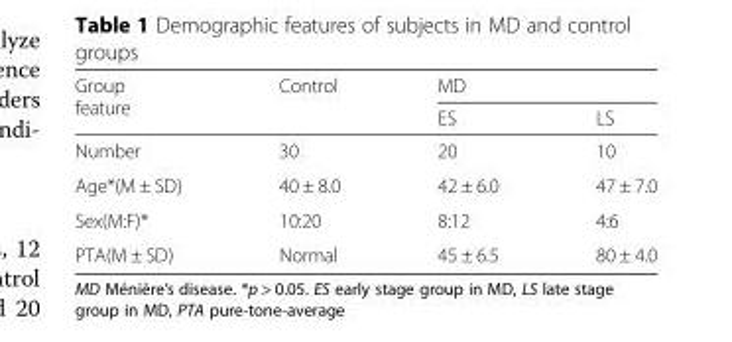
<table><thead><tr><td rowspan="2">Group feature</td><td rowspan="2">Control</td><td colspan="2">MD</td></tr><tr><td>ES</td><td>LS</td></tr></thead><tbody><tr><td>Number</td><td>30</td><td>20</td><td>10</td></tr><tr><td>Age*(M ± SD)</td><td>40 ± 8.0</td><td>42 ± 6.0</td><td>47 ± 7.0</td></tr><tr><td>Sex(M:F)*</td><td>10:20</td><td>8:12</td><td>4:6</td></tr><tr><td>PTA(M ± SD)</td><td>Normal</td><td>45 ± 6.5</td><td>80 ± 4.0</td></tr></tbody></table>